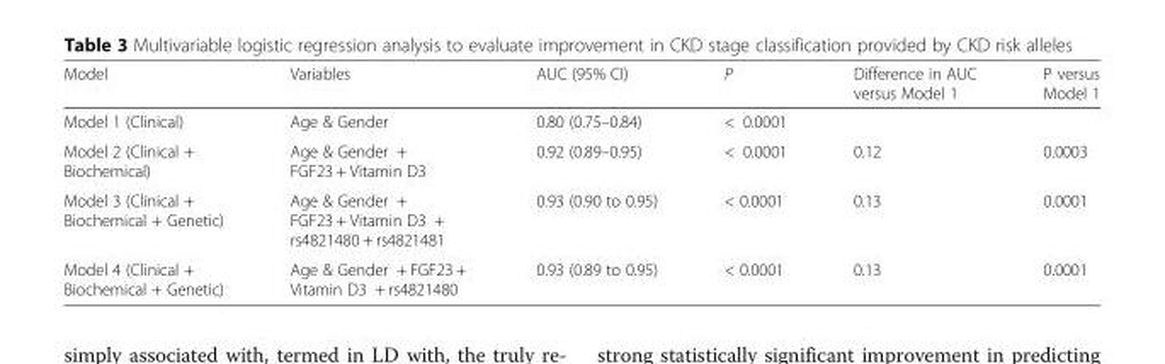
<table><thead><tr><td>Model</td><td>Variables</td><td>AUC (95% CI)</td><td>P</td><td>Difference in AUC versus Model 1</td><td>P versus Model 1</td></tr></thead><tbody><tr><td>Model 1 (Clinical)</td><td>Age &amp; Gender</td><td>0.80 (0.75–0.84)</td><td>&lt; 0.0001</td><td></td><td></td></tr><tr><td>Model 2 (Clinical + Biochemical)</td><td>Age &amp; Gender + FGF23 + Vitamin D3</td><td>0.92 (0.89–0.95)</td><td>&lt; 0.0001</td><td>0.12</td><td>0.0003</td></tr><tr><td>Model 3 (Clinical + Biochemical + Genetic)</td><td>Age &amp; Gender + FGF23 + Vitamin D3 + rs4821480 + rs4821481</td><td>0.93 (0.90 to 0.95)</td><td>&lt; 0.0001</td><td>0.13</td><td>0.0001</td></tr><tr><td>Model 4 (Clinical + Biochemical + Genetic)</td><td>Age &amp; Gender + FGF23 + Vitamin D3 + rs4821480</td><td>0.93 (0.89 to 0.95)</td><td>&lt; 0.0001</td><td>0.13</td><td>0.0001</td></tr></tbody></table>